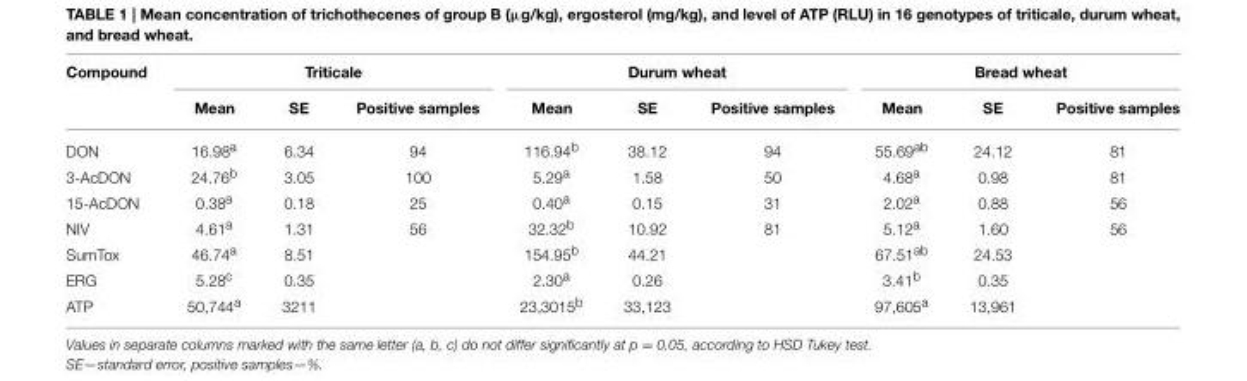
<table><thead><tr><td rowspan="2">Compound</td><td colspan="3">Triticale</td><td colspan="3">Durum wheat</td><td colspan="3">Bread wheat</td></tr><tr><td>Mean</td><td>SE</td><td>Positive samples</td><td>Mean</td><td>SE</td><td>Positive samples</td><td>Mean</td><td>SE</td><td>Positive samples</td></tr></thead><tbody><tr><td>DON</td><td>16.98<sup>a</sup></td><td>6.34</td><td>94</td><td>116.94<sup>b</sup></td><td>38.12</td><td>94</td><td>55.69<sup>ab</sup></td><td>24.12</td><td>81</td></tr><tr><td>3-AcDON</td><td>24.76<sup>b</sup></td><td>3.05</td><td>100</td><td>5.29<sup>a</sup></td><td>1.58</td><td>50</td><td>4.68<sup>a</sup></td><td>0.98</td><td>81</td></tr><tr><td>15-AcDON</td><td>0.38<sup>a</sup></td><td>0.18</td><td>25</td><td>0.40<sup>a</sup></td><td>0.15</td><td>31</td><td>2.02<sup>a</sup></td><td>0.88</td><td>56</td></tr><tr><td>NIV</td><td>4.61<sup>a</sup></td><td>1.31</td><td>56</td><td>32.32<sup>b</sup></td><td>10.92</td><td>81</td><td>5.12<sup>a</sup></td><td>1.60</td><td>56</td></tr><tr><td>SumTox</td><td>46.74<sup>a</sup></td><td>8.51</td><td></td><td>154.95<sup>b</sup></td><td>44.21</td><td></td><td>67.51<sup>ab</sup></td><td>24.53</td><td></td></tr><tr><td>ERG</td><td>5.28<sup>c</sup></td><td>0.35</td><td></td><td>2.30<sup>a</sup></td><td>0.26</td><td></td><td>3.41<sup>b</sup></td><td>0.35</td><td></td></tr><tr><td>ATP</td><td>50,744<sup>a</sup></td><td>3211</td><td></td><td>23,3015<sup>b</sup></td><td>33,123</td><td></td><td>97,605<sup>a</sup></td><td>13,961</td><td></td></tr></tbody></table>